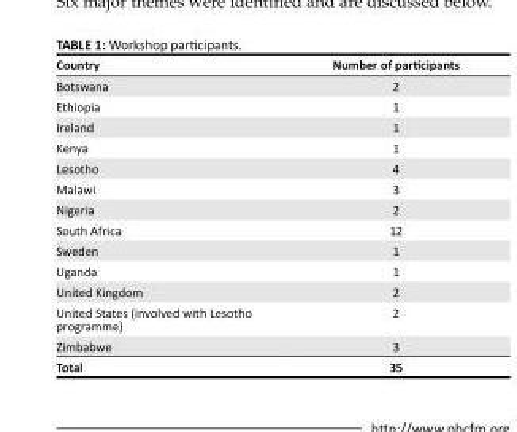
<table><thead><tr><td>Country</td><td>Number of participants</td></tr></thead><tbody><tr><td>Botswana</td><td>2</td></tr><tr><td>Ethiopia</td><td>1</td></tr><tr><td>Ireland</td><td>1</td></tr><tr><td>Kenya</td><td>1</td></tr><tr><td>Lesotho</td><td>4</td></tr><tr><td>Malawi</td><td>3</td></tr><tr><td>Nigeria</td><td>2</td></tr><tr><td>South Africa</td><td>12</td></tr><tr><td>Sweden</td><td>1</td></tr><tr><td>Uganda</td><td>1</td></tr><tr><td>United Kingdom</td><td>2</td></tr><tr><td>United States (involved with Lesotho programme)</td><td>2</td></tr><tr><td>Zimbabwe</td><td>3</td></tr><tr><td>Total</td><td>35</td></tr></tbody></table>